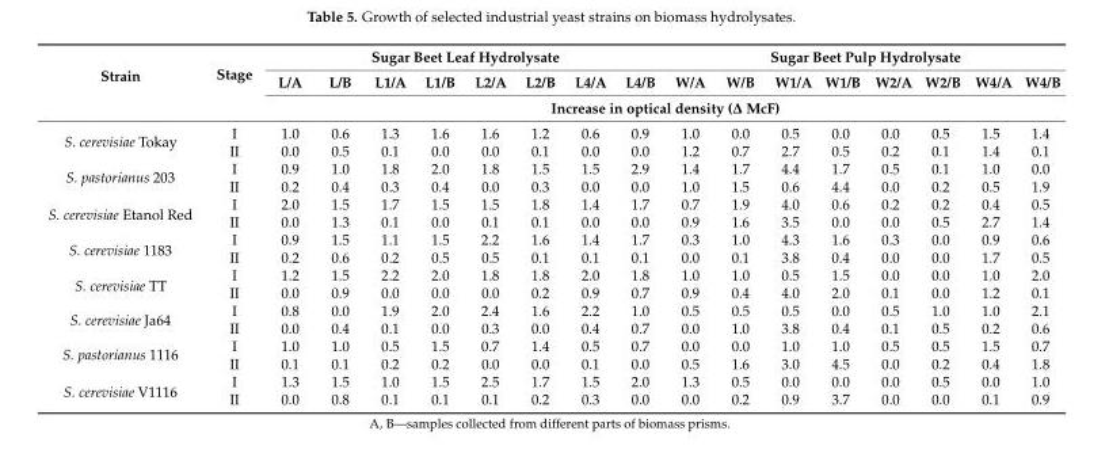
<table><thead><tr><td rowspan="3">Strain</td><td rowspan="3">Stage</td><td colspan="8">Sugar Beet Leaf Hydrolysate</td><td colspan="8">Sugar Beet Pulp Hydrolysate</td></tr><tr><td>L/A</td><td>L/B</td><td>L1/A</td><td>L1/B</td><td>L2/A</td><td>L2/B</td><td>L4/A</td><td>L4/B</td><td>W/A</td><td>W/B</td><td>W1/A</td><td>W1/B</td><td>W2/A</td><td>W2/B</td><td>W4/A</td><td>W4/B</td></tr><tr><td colspan="16">Increase in optical density (∆ McF)</td></tr></thead><tbody><tr><td rowspan="2">S. cerevisiae Tokay</td><td>I</td><td>1.0</td><td>0.6</td><td>1.3</td><td>1.6</td><td>1.6</td><td>1.2</td><td>0.6</td><td>0.9</td><td>1.0</td><td>0.0</td><td>0.5</td><td>0.0</td><td>0.0</td><td>0.5</td><td>1.5</td><td>1.4</td></tr><tr><td>II</td><td>0.0</td><td>0.5</td><td>0.1</td><td>0.0</td><td>0.0</td><td>0.1</td><td>0.0</td><td>0.0</td><td>1.2</td><td>0.7</td><td>2.7</td><td>0.5</td><td>0.2</td><td>0.1</td><td>1.4</td><td>0.1</td></tr><tr><td rowspan="2">S. pastorianus 203</td><td>I</td><td>0.9</td><td>1.0</td><td>1.8</td><td>2.0</td><td>1.8</td><td>1.5</td><td>1.5</td><td>2.9</td><td>1.4</td><td>1.7</td><td>4.4</td><td>1.7</td><td>0.5</td><td>0.1</td><td>1.0</td><td>0.0</td></tr><tr><td>II</td><td>0.2</td><td>0.4</td><td>0.3</td><td>0.4</td><td>0.0</td><td>0.3</td><td>0.0</td><td>0.0</td><td>1.0</td><td>1.5</td><td>0.6</td><td>4.4</td><td>0.0</td><td>0.2</td><td>0.5</td><td>1.9</td></tr><tr><td rowspan="2">S. cerevisiae Etanol Red</td><td>I</td><td>2.0</td><td>1.5</td><td>1.7</td><td>1.5</td><td>1.5</td><td>1.8</td><td>1.4</td><td>1.7</td><td>0.7</td><td>1.9</td><td>4.0</td><td>0.6</td><td>0.2</td><td>0.2</td><td>0.4</td><td>0.5</td></tr><tr><td>II</td><td>0.0</td><td>1.3</td><td>0.1</td><td>0.0</td><td>0.1</td><td>0.1</td><td>0.0</td><td>0.0</td><td>0.9</td><td>1.6</td><td>3.5</td><td>0.0</td><td>0.0</td><td>0.5</td><td>2.7</td><td>1.4</td></tr><tr><td rowspan="2">S. cerevisiae 1183</td><td>I</td><td>0.9</td><td>1.5</td><td>1.1</td><td>1.5</td><td>2.2</td><td>1.6</td><td>1.4</td><td>1.7</td><td>0.3</td><td>1.0</td><td>4.3</td><td>1.6</td><td>0.3</td><td>0.0</td><td>0.9</td><td>0.6</td></tr><tr><td>II</td><td>0.2</td><td>0.6</td><td>0.2</td><td>0.5</td><td>0.5</td><td>0.1</td><td>0.1</td><td>0.1</td><td>0.0</td><td>0.1</td><td>3.8</td><td>0.4</td><td>0.0</td><td>0.0</td><td>1.7</td><td>0.5</td></tr><tr><td rowspan="2">S. cerevisiae TT</td><td>I</td><td>1.2</td><td>1.5</td><td>2.2</td><td>2.0</td><td>1.8</td><td>1.8</td><td>2.0</td><td>1.8</td><td>1.0</td><td>1.0</td><td>0.5</td><td>1.5</td><td>0.0</td><td>0.0</td><td>1.0</td><td>2.0</td></tr><tr><td>II</td><td>0.0</td><td>0.9</td><td>0.0</td><td>0.0</td><td>0.0</td><td>0.2</td><td>0.9</td><td>0.7</td><td>0.9</td><td>0.4</td><td>4.0</td><td>2.0</td><td>0.1</td><td>0.0</td><td>1.2</td><td>0.1</td></tr><tr><td rowspan="2">S. cerevisiae Ja64</td><td>I</td><td>0.8</td><td>0.0</td><td>1.9</td><td>2.0</td><td>2.4</td><td>1.6</td><td>2.2</td><td>1.0</td><td>0.5</td><td>0.5</td><td>0.5</td><td>0.0</td><td>0.5</td><td>1.0</td><td>1.0</td><td>2.1</td></tr><tr><td>II</td><td>0.0</td><td>0.4</td><td>0.1</td><td>0.0</td><td>0.3</td><td>0.0</td><td>0.4</td><td>0.7</td><td>0.0</td><td>1.0</td><td>3.8</td><td>0.4</td><td>0.1</td><td>0.5</td><td>0.2</td><td>0.6</td></tr><tr><td rowspan="2">S. pastorianus 1116</td><td>I</td><td>1.0</td><td>1.0</td><td>0.5</td><td>1.5</td><td>0.7</td><td>1.4</td><td>0.5</td><td>0.7</td><td>0.0</td><td>0.0</td><td>1.0</td><td>1.0</td><td>0.5</td><td>0.5</td><td>1.5</td><td>0.7</td></tr><tr><td>II</td><td>0.1</td><td>0.1</td><td>0.2</td><td>0.2</td><td>0.0</td><td>0.0</td><td>0.1</td><td>0.0</td><td>0.5</td><td>1.6</td><td>3.0</td><td>4.5</td><td>0.0</td><td>0.2</td><td>0.4</td><td>1.8</td></tr><tr><td rowspan="2">S. cerevisiae V1116</td><td>I</td><td>1.3</td><td>1.5</td><td>1.0</td><td>1.5</td><td>2.5</td><td>1.7</td><td>1.5</td><td>2.0</td><td>1.3</td><td>0.5</td><td>0.0</td><td>0.0</td><td>0.0</td><td>0.5</td><td>0.0</td><td>1.0</td></tr><tr><td>II</td><td>0.0</td><td>0.8</td><td>0.1</td><td>0.1</td><td>0.1</td><td>0.2</td><td>0.3</td><td>0.0</td><td>0.0</td><td>0.2</td><td>0.9</td><td>3.7</td><td>0.0</td><td>0.0</td><td>0.1</td><td>0.9</td></tr></tbody></table>